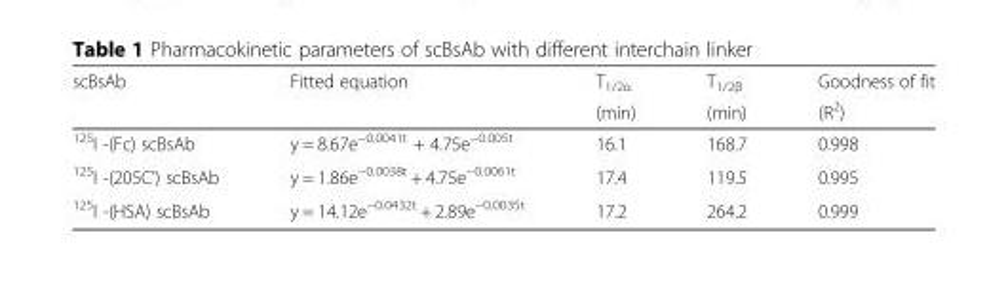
<table><thead><tr><td rowspan="2">scBsAb</td><td rowspan="2">Fitted equation</td><td rowspan="2">T<sub>1/2α</sub> (min)</td><td rowspan="2">T<sub>1/2β</sub> (min)</td><td rowspan="2">Goodness of fit (R<sup>2</sup>)</td></tr><tr></tr></thead><tbody><tr><td><sup>125</sup>I -(Fc) scBsAb</td><td>y = 8.67e<sup>−0.0041t</sup> + 4.75e<sup>−0.005t</sup></td><td>16.1</td><td>168.7</td><td>0.998</td></tr><tr><td><sup>125</sup>I -(205C’) scBsAb</td><td>y = 1.86e<sup>−0.0038t</sup> + 4.75e<sup>−0.0061t</sup></td><td>17.4</td><td>119.5</td><td>0.995</td></tr><tr><td><sup>125</sup>I -(HSA) scBsAb</td><td>y = 14.12e<sup>−0.0432t</sup> + 2.89e<sup>−0.0035t</sup></td><td>17.2</td><td>264.2</td><td>0.999</td></tr></tbody></table>